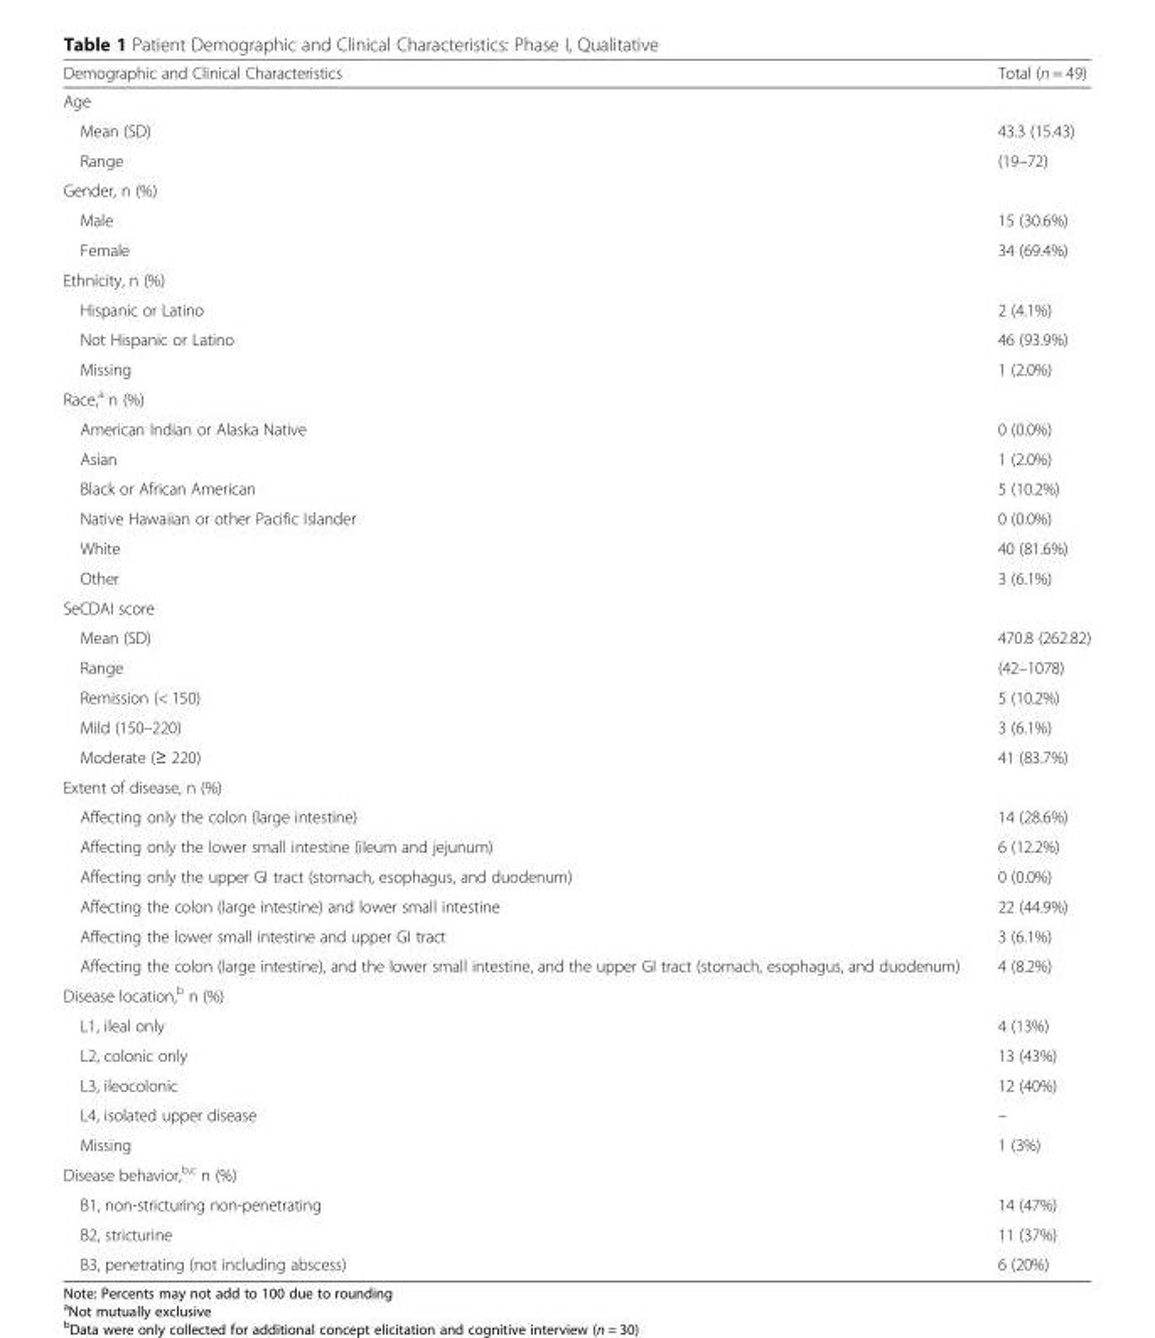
<table><thead><tr><td>Demographic and Clinical Characteristics</td><td>Total (n = 49)</td></tr></thead><tbody><tr><td colspan="2">Age</td></tr><tr><td>Mean (SD)</td><td>43.3 (15.43)</td></tr><tr><td>Range</td><td>(19–72)</td></tr><tr><td colspan="2">Gender, n (%)</td></tr><tr><td>Male</td><td>15 (30.6%)</td></tr><tr><td>Female</td><td>34 (69.4%)</td></tr><tr><td colspan="2">Ethnicity, n (%)</td></tr><tr><td>Hispanic or Latino</td><td>2 (4.1%)</td></tr><tr><td>Not Hispanic or Latino</td><td>46 (93.9%)</td></tr><tr><td>Missing</td><td>1 (2.0%)</td></tr><tr><td colspan="2">Race,<sup>a</sup> n (%)</td></tr><tr><td>American Indian or Alaska Native</td><td>0 (0.0%)</td></tr><tr><td>Asian</td><td>1 (2.0%)</td></tr><tr><td>Black or African American</td><td>5 (10.2%)</td></tr><tr><td>Native Hawaiian or other Pacific Islander</td><td>0 (0.0%)</td></tr><tr><td>White</td><td>40 (81.6%)</td></tr><tr><td>Other</td><td>3 (6.1%)</td></tr><tr><td colspan="2">SeCDAI score</td></tr><tr><td>Mean (SD)</td><td>470.8 (262.82)</td></tr><tr><td>Range</td><td>(42–1078)</td></tr><tr><td>Remission (&lt; 150)</td><td>5 (10.2%)</td></tr><tr><td>Mild (150–220)</td><td>3 (6.1%)</td></tr><tr><td>Moderate (≥ 220)</td><td>41 (83.7%)</td></tr><tr><td colspan="2">Extent of disease, n (%)</td></tr><tr><td>Affecting only the colon (large intestine)</td><td>14 (28.6%)</td></tr><tr><td>Affecting only the lower small intestine (ileum and jejunum)</td><td>6 (12.2%)</td></tr><tr><td>Affecting only the upper GI tract (stomach, esophagus, and duodenum)</td><td>0 (0.0%)</td></tr><tr><td>Affecting the colon (large intestine) and lower small intestine</td><td>22 (44.9%)</td></tr><tr><td>Affecting the lower small intestine and upper GI tract</td><td>3 (6.1%)</td></tr><tr><td>Affecting the colon (large intestine), and the lower small intestine, and the upper GI tract (stomach, esophagus, and duodenum)</td><td>4 (8.2%)</td></tr><tr><td colspan="2">Disease location,<sup>b</sup> n (%)</td></tr><tr><td>L1, ileal only</td><td>4 (13%)</td></tr><tr><td>L2, colonic only</td><td>13 (43%)</td></tr><tr><td>L3, ileocolonic</td><td>12 (40%)</td></tr><tr><td>L4, isolated upper disease</td><td>–</td></tr><tr><td>Missing</td><td>1 (3%)</td></tr><tr><td colspan="2">Disease behavior,<sup>b,c</sup> n (%)</td></tr><tr><td>B1, non-stricturing non-penetrating</td><td>14 (47%)</td></tr><tr><td>B2, stricturine</td><td>11 (37%)</td></tr><tr><td>B3, penetrating (not including abscess)</td><td>6 (20%)</td></tr></tbody></table>